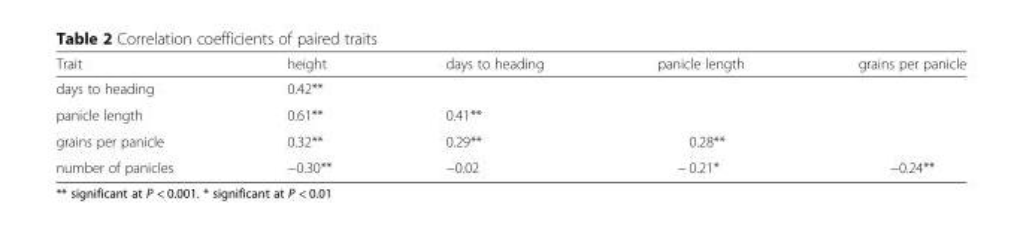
<table><thead><tr><td>Trait</td><td>height</td><td>days to heading</td><td>panicle length</td><td>grains per panicle</td></tr></thead><tbody><tr><td>days to heading</td><td>0.42**</td><td></td><td></td><td></td></tr><tr><td>panicle length</td><td>0.61**</td><td>0.41**</td><td></td><td></td></tr><tr><td>grains per panicle</td><td>0.32**</td><td>0.29**</td><td>0.28**</td><td></td></tr><tr><td>number of panicles</td><td>−0.30**</td><td>−0.02</td><td>− 0.21*</td><td>−0.24**</td></tr></tbody></table>